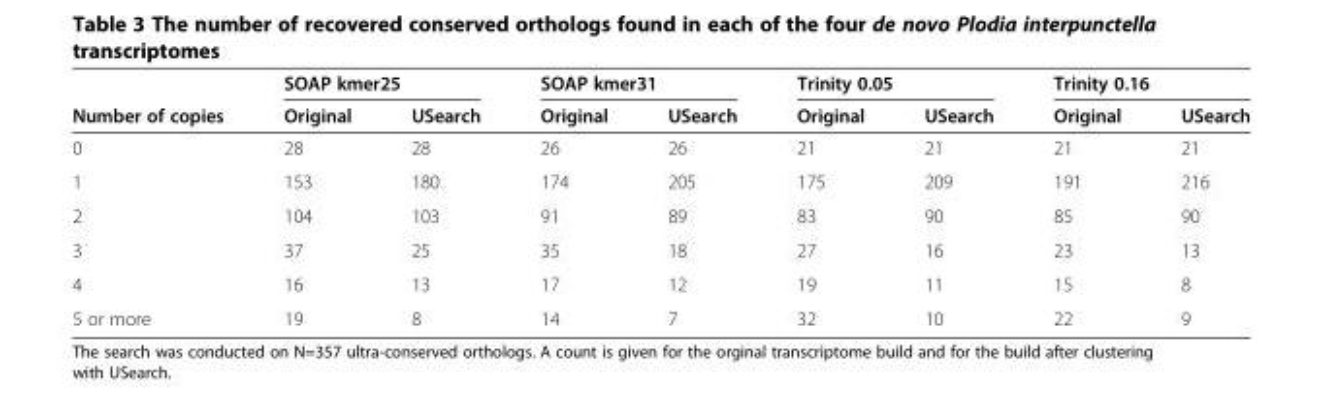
<table><thead><tr><td rowspan="2">Number of copies</td><td colspan="2">SOAP kmer25</td><td colspan="2">SOAP kmer31</td><td colspan="2">Trinity 0.05</td><td colspan="2">Trinity 0.16</td></tr><tr><td>Original</td><td>USearch</td><td>Original</td><td>USearch</td><td>Original</td><td>USearch</td><td>Original</td><td>USearch</td></tr></thead><tbody><tr><td>0</td><td>28</td><td>28</td><td>26</td><td>26</td><td>21</td><td>21</td><td>21</td><td>21</td></tr><tr><td>1</td><td>153</td><td>180</td><td>174</td><td>205</td><td>175</td><td>209</td><td>191</td><td>216</td></tr><tr><td>2</td><td>104</td><td>103</td><td>91</td><td>89</td><td>83</td><td>90</td><td>85</td><td>90</td></tr><tr><td>3</td><td>37</td><td>25</td><td>35</td><td>18</td><td>27</td><td>16</td><td>23</td><td>13</td></tr><tr><td>4</td><td>16</td><td>13</td><td>17</td><td>12</td><td>19</td><td>11</td><td>15</td><td>8</td></tr><tr><td>5 or more</td><td>19</td><td>8</td><td>14</td><td>7</td><td>32</td><td>10</td><td>22</td><td>9</td></tr></tbody></table>